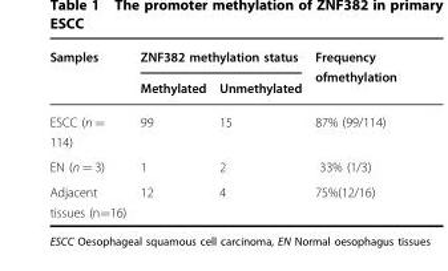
<table><thead><tr><td rowspan="2">Samples</td><td colspan="2">ZNF382 methylation status</td><td rowspan="2">Frequency ofmethylation</td></tr><tr><td>Methylated</td><td>Unmethylated</td></tr></thead><tbody><tr><td>ESCC (n = 114)</td><td>99</td><td>15</td><td>87% (99/114)</td></tr><tr><td>EN (n = 3)</td><td>1</td><td>2</td><td>33% (1/3)</td></tr><tr><td>Adjacent tissues (n=16)</td><td>12</td><td>4</td><td>75%(12/16)</td></tr></tbody></table>